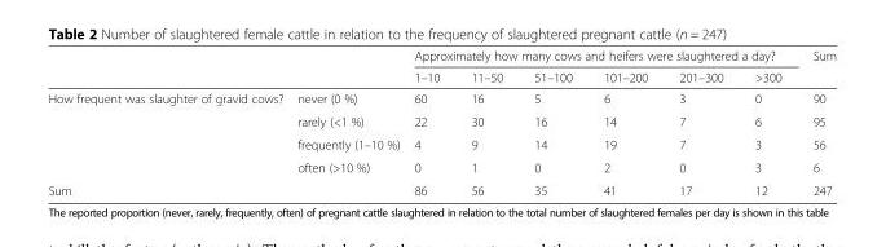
<table><thead><tr><td rowspan="2"></td><td rowspan="2"></td><td colspan="6">Approximately how many cows and heifers were slaughtered a day?</td><td rowspan="2">Sum</td></tr><tr><td>1–10</td><td>11–50</td><td>51–100</td><td>101–200</td><td>201–300</td><td>&gt;300</td></tr></thead><tbody><tr><td rowspan="4">How frequent was slaughter of gravid cows?</td><td>never (0 %)</td><td>60</td><td>16</td><td>5</td><td>6</td><td>3</td><td>0</td><td>90</td></tr><tr><td>rarely (&lt;1 %)</td><td>22</td><td>30</td><td>16</td><td>14</td><td>7</td><td>6</td><td>95</td></tr><tr><td>frequently (1–10 %)</td><td>4</td><td>9</td><td>14</td><td>19</td><td>7</td><td>3</td><td>56</td></tr><tr><td>often (&gt;10 %)</td><td>0</td><td>1</td><td>0</td><td>2</td><td>0</td><td>3</td><td>6</td></tr><tr><td colspan="2">Sum</td><td>86</td><td>56</td><td>35</td><td>41</td><td>17</td><td>12</td><td>247</td></tr></tbody></table>